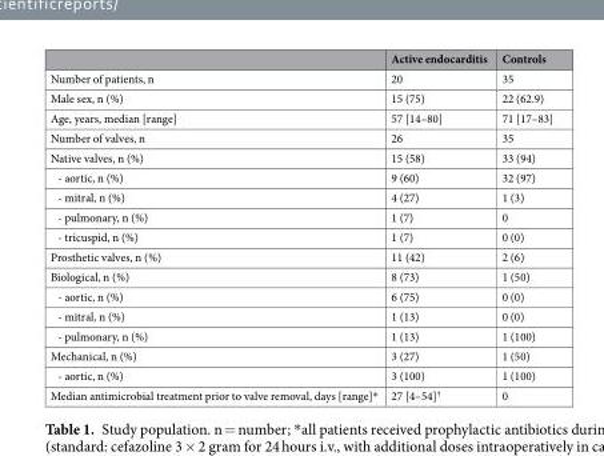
<table><thead><tr><td></td><td>Active endocarditis</td><td>Controls</td></tr></thead><tbody><tr><td>Number of patients, n</td><td>20</td><td>35</td></tr><tr><td>Male sex, n (%)</td><td>15 (75)</td><td>22 (62.9)</td></tr><tr><td>Age, years, median [range]</td><td>57 [14–80]</td><td>71 [17–83]</td></tr><tr><td>Number of valves, n</td><td>26</td><td>35</td></tr><tr><td>Native valves, n (%)</td><td>15 (58)</td><td>33 (94)</td></tr><tr><td>- aortic, n (%)</td><td>9 (60)</td><td>32 (97)</td></tr><tr><td>- mitral, n (%)</td><td>4 (27)</td><td>1 (3)</td></tr><tr><td>- pulmonary, n (%)</td><td>1 (7)</td><td>0</td></tr><tr><td>- tricuspid, n (%)</td><td>1 (7)</td><td>0 (0)</td></tr><tr><td>Prosthetic valves, n (%)</td><td>11 (42)</td><td>2 (6)</td></tr><tr><td>Biological, n (%)</td><td>8 (73)</td><td>1 (50)</td></tr><tr><td>- aortic, n (%)</td><td>6 (75)</td><td>0 (0)</td></tr><tr><td>- mitral, n (%)</td><td>1 (13)</td><td>0 (0)</td></tr><tr><td>- pulmonary, n (%)</td><td>1 (13)</td><td>1 (100)</td></tr><tr><td>Mechanical, n (%)</td><td>3 (27)</td><td>1 (50)</td></tr><tr><td>- aortic, n (%)</td><td>3 (100)</td><td>1 (100)</td></tr><tr><td>Median antimicrobial treatment prior to valve removal, days [range]*</td><td>27 [4–54]<sup>†</sup></td><td>0</td></tr></tbody></table>